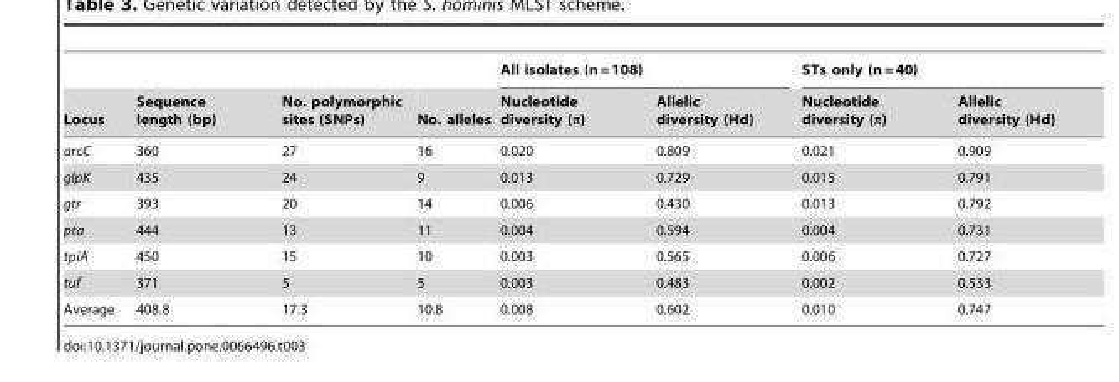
<table><thead><tr><td rowspan="2">Locus</td><td rowspan="2">Sequence length (bp)</td><td rowspan="2">No. polymorphic sites (SNPs)</td><td rowspan="2">No. alleles</td><td colspan="2">All isolates (n = 108)</td><td colspan="2">STs only (n = 40)</td></tr><tr><td>Nucleotide diversity (π)</td><td>Allelic diversity (Hd)</td><td>Nucleotide diversity (π)</td><td>Allelic diversity (Hd)</td></tr></thead><tbody><tr><td>arcC</td><td>360</td><td>27</td><td>16</td><td>0.020</td><td>0.809</td><td>0.021</td><td>0.909</td></tr><tr><td>glpK</td><td>435</td><td>24</td><td>9</td><td>0.013</td><td>0.729</td><td>0.015</td><td>0.791</td></tr><tr><td>gtr</td><td>393</td><td>20</td><td>14</td><td>0.006</td><td>0.430</td><td>0.013</td><td>0.792</td></tr><tr><td>pta</td><td>444</td><td>13</td><td>11</td><td>0.004</td><td>0.594</td><td>0.004</td><td>0.731</td></tr><tr><td>tpiA</td><td>450</td><td>15</td><td>10</td><td>0.003</td><td>0.565</td><td>0.006</td><td>0.727</td></tr><tr><td>tuf</td><td>371</td><td>5</td><td>5</td><td>0.003</td><td>0.483</td><td>0.002</td><td>0.533</td></tr><tr><td>Average</td><td>408.8</td><td>17.3</td><td>10.8</td><td>0.008</td><td>0.602</td><td>0.010</td><td>0.747</td></tr></tbody></table>